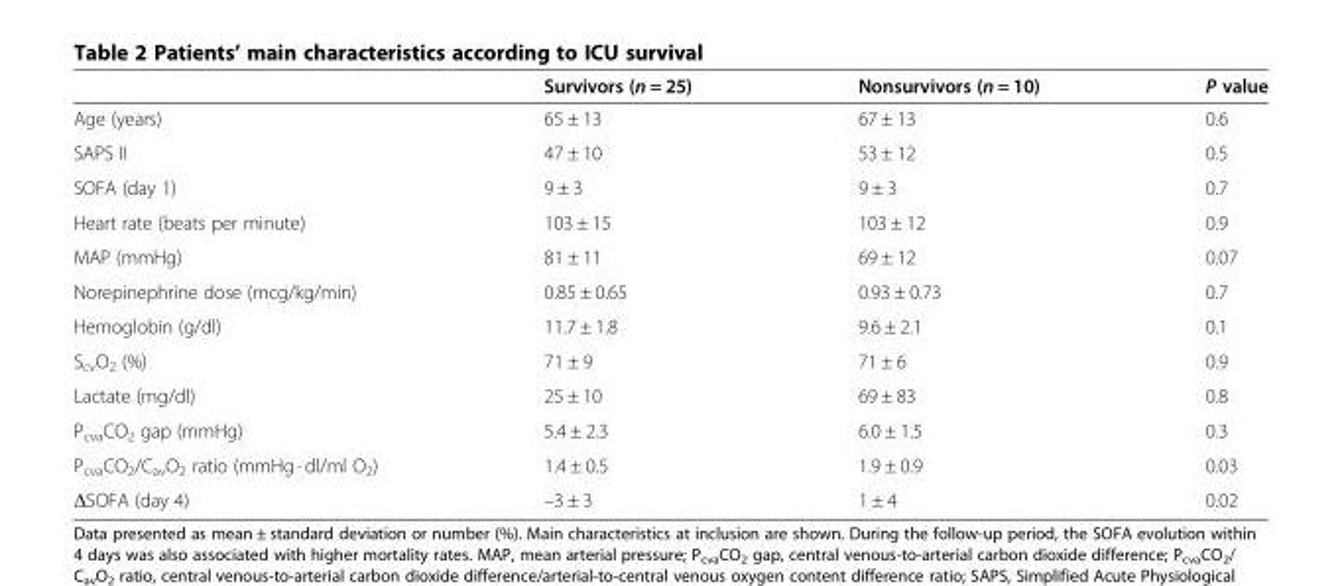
<table><thead><tr><td></td><td>Survivors (n = 25)</td><td>Nonsurvivors (n = 10)</td><td>P value</td></tr></thead><tbody><tr><td>Age (years)</td><td>65 ± 13</td><td>67 ± 13</td><td>0.6</td></tr><tr><td>SAPS II</td><td>47 ± 10</td><td>53 ± 12</td><td>0.5</td></tr><tr><td>SOFA (day 1)</td><td>9 ± 3</td><td>9 ± 3</td><td>0.7</td></tr><tr><td>Heart rate (beats per minute)</td><td>103 ± 15</td><td>103 ± 12</td><td>0.9</td></tr><tr><td>MAP (mmHg)</td><td>81 ± 11</td><td>69 ± 12</td><td>0.07</td></tr><tr><td>Norepinephrine dose (mcg/kg/min)</td><td>0.85 ± 0.65</td><td>0.93 ± 0.73</td><td>0.7</td></tr><tr><td>Hemoglobin (g/dl)</td><td>11.7 ± 1.8</td><td>9.6 ± 2.1</td><td>0.1</td></tr><tr><td>S<sub>cv</sub>O<sub>2</sub> (%)</td><td>71 ± 9</td><td>71 ± 6</td><td>0.9</td></tr><tr><td>Lactate (mg/dl)</td><td>25 ± 10</td><td>69 ± 83</td><td>0.8</td></tr><tr><td>P<sub>cva</sub>CO<sub>2</sub> gap (mmHg)</td><td>5.4 ± 2.3</td><td>6.0 ± 1.5</td><td>0.3</td></tr><tr><td>P<sub>cva</sub>CO<sub>2</sub>/C<sub>av</sub>O<sub>2</sub> ratio (mmHg · dl/ml O<sub>2</sub>)</td><td>1.4 ± 0.5</td><td>1.9 ± 0.9</td><td>0.03</td></tr><tr><td>ΔSOFA (day 4)</td><td>–3 ± 3</td><td>1 ± 4</td><td>0.02</td></tr></tbody></table>